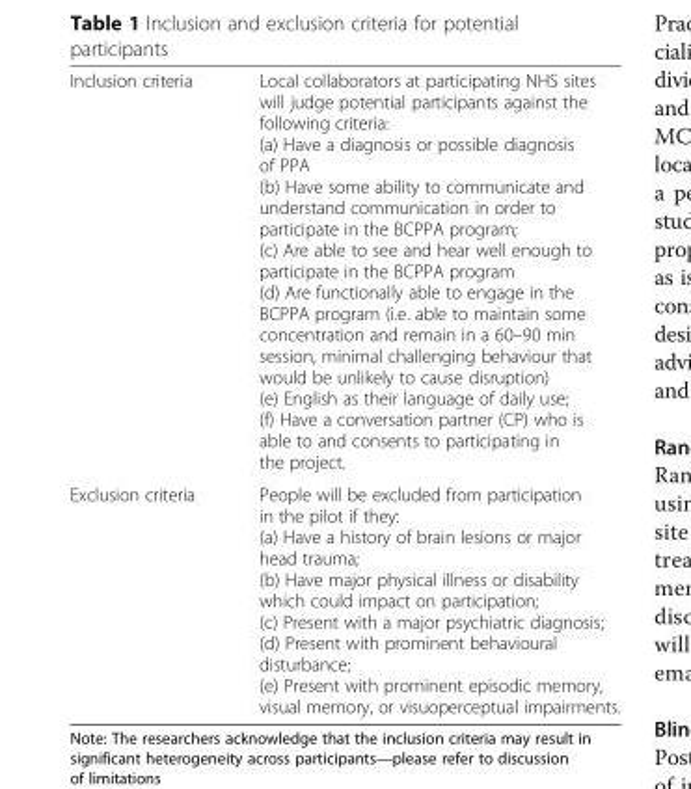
<table><tbody><tr><td>Inclusion criteria</td><td>Local collaborators at participating NHS sites will judge potential participants against the following criteria: (a) Have a diagnosis or possible diagnosis of PPA (b) Have some ability to communicate and understand communication in order to participate in the BCPPA program; (c) Are able to see and hear well enough to participate in the BCPPA program (d) Are functionally able to engage in the BCPPA program (i.e. able to maintain some concentration and remain in a 60–90 min session, minimal challenging behaviour that would be unlikely to cause disruption) (e) English as their language of daily use; (f) Have a conversation partner (CP) who is able to and consents to participating in the project.</td></tr><tr><td>Exclusion criteria</td><td>People will be excluded from participation in the pilot if they: (a) Have a history of brain lesions or major head trauma; (b) Have major physical illness or disability which could impact on participation; (c) Present with a major psychiatric diagnosis; (d) Present with prominent behavioural disturbance; (e) Present with prominent episodic memory, visual memory, or visuoperceptual impairments.</td></tr></tbody></table>